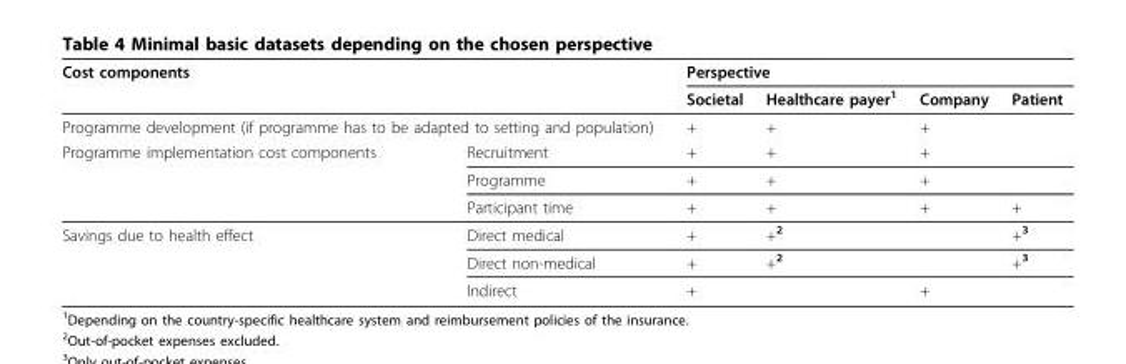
<table><thead><tr><td colspan="2">Cost components</td><td colspan="4">Perspective</td></tr><tr><td></td><td></td><td>Societal</td><td>Healthcare payer<sup>1</sup></td><td>Company</td><td>Patient</td></tr></thead><tbody><tr><td colspan="2">Programme development (if programme has to be adapted to setting and population)</td><td>+</td><td>+</td><td>+</td><td></td></tr><tr><td rowspan="3">Programme implementation cost components</td><td>Recruitment</td><td>+</td><td>+</td><td>+</td><td></td></tr><tr><td>Programme</td><td>+</td><td>+</td><td>+</td><td></td></tr><tr><td>Participant time</td><td>+</td><td>+</td><td>+</td><td>+</td></tr><tr><td rowspan="3">Savings due to health effect</td><td>Direct medical</td><td>+</td><td>+<sup>2</sup></td><td></td><td>+<sup>3</sup></td></tr><tr><td>Direct non-medical</td><td>+</td><td>+<sup>2</sup></td><td></td><td>+<sup>3</sup></td></tr><tr><td>Indirect</td><td>+</td><td></td><td>+</td><td></td></tr></tbody></table>